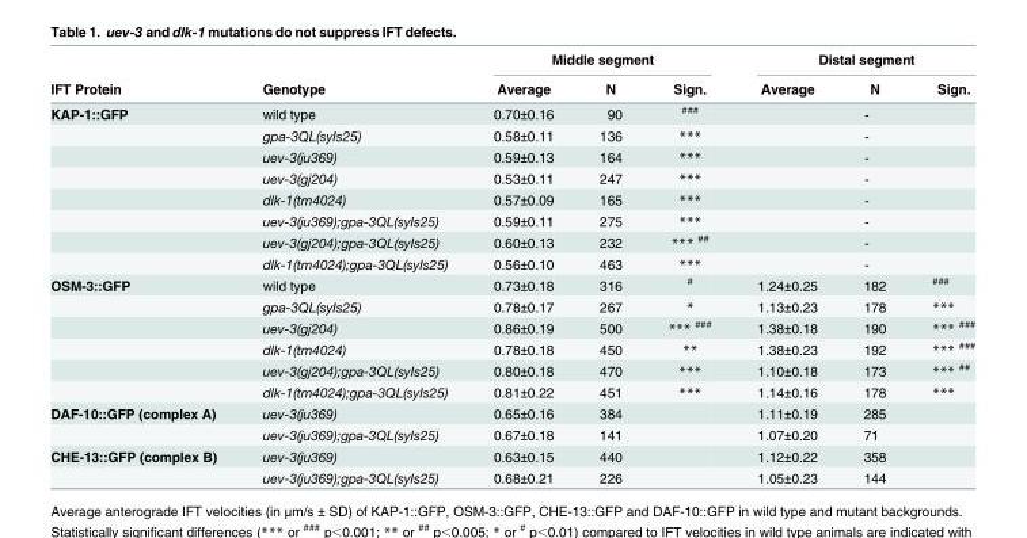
<table><thead><tr><td rowspan="2">IFT Protein</td><td rowspan="2">Genotype</td><td colspan="3">Middle segment</td><td colspan="3">Distal segment</td></tr><tr><td>Average</td><td>N</td><td>Sign.</td><td>Average</td><td>N</td><td>Sign.</td></tr></thead><tbody><tr><td rowspan="8">KAP-1::GFP</td><td>wild type</td><td>0.70±0.16</td><td>90</td><td><sup>###</sup></td><td colspan="3">-</td></tr><tr><td>gpa-3QL(syIs25)</td><td>0.58±0.11</td><td>136</td><td>***</td><td colspan="3">-</td></tr><tr><td>uev-3(ju369)</td><td>0.59±0.13</td><td>164</td><td>***</td><td colspan="3">-</td></tr><tr><td>uev-3(gj204)</td><td>0.53±0.11</td><td>247</td><td>***</td><td colspan="3">-</td></tr><tr><td>dlk-1(tm4024)</td><td>0.57±0.09</td><td>165</td><td>***</td><td colspan="3">-</td></tr><tr><td>uev-3(ju369);gpa-3QL(syIs25)</td><td>0.59±0.11</td><td>275</td><td>***</td><td colspan="3">-</td></tr><tr><td>uev-3(gj204);gpa-3QL(syIs25)</td><td>0.60±0.13</td><td>232</td><td>*** <sup>##</sup></td><td colspan="3">-</td></tr><tr><td>dlk-1(tm4024);gpa-3QL(syIs25)</td><td>0.56±0.10</td><td>463</td><td>***</td><td colspan="3">-</td></tr><tr><td rowspan="6">OSM-3::GFP</td><td>wild type</td><td>0.73±0.18</td><td>316</td><td><sup>#</sup></td><td>1.24±0.25</td><td>182</td><td><sup>###</sup></td></tr><tr><td>gpa-3QL(syIs25)</td><td>0.78±0.17</td><td>267</td><td>*</td><td>1.13±0.23</td><td>178</td><td>***</td></tr><tr><td>uev-3(gj204)</td><td>0.86±0.19</td><td>500</td><td>*** <sup>###</sup></td><td>1.38±0.18</td><td>190</td><td>*** <sup>###</sup></td></tr><tr><td>dlk-1(tm4024)</td><td>0.78±0.18</td><td>450</td><td>**</td><td>1.38±0.23</td><td>192</td><td>*** <sup>###</sup></td></tr><tr><td>uev-3(gj204);gpa-3QL(syIs25)</td><td>0.80±0.18</td><td>470</td><td>***</td><td>1.10±0.18</td><td>173</td><td>*** <sup>##</sup></td></tr><tr><td>dlk-1(tm4024);gpa-3QL(syIs25)</td><td>0.81±0.22</td><td>451</td><td>***</td><td>1.14±0.16</td><td>178</td><td>***</td></tr><tr><td rowspan="2">DAF-10::GFP (complex A)</td><td>uev-3(ju369)</td><td>0.65±0.16</td><td>384</td><td></td><td>1.11±0.19</td><td>285</td><td></td></tr><tr><td>uev-3(ju369);gpa-3QL(syIs25)</td><td>0.67±0.18</td><td>141</td><td></td><td>1.07±0.20</td><td>71</td><td></td></tr><tr><td rowspan="2">CHE-13::GFP (complex B)</td><td>uev-3(ju369)</td><td>0.63±0.15</td><td>440</td><td></td><td>1.12±0.22</td><td>358</td><td></td></tr><tr><td>uev-3(ju369);gpa-3QL(syIs25)</td><td>0.68±0.21</td><td>226</td><td></td><td>1.05±0.23</td><td>144</td><td></td></tr></tbody></table>